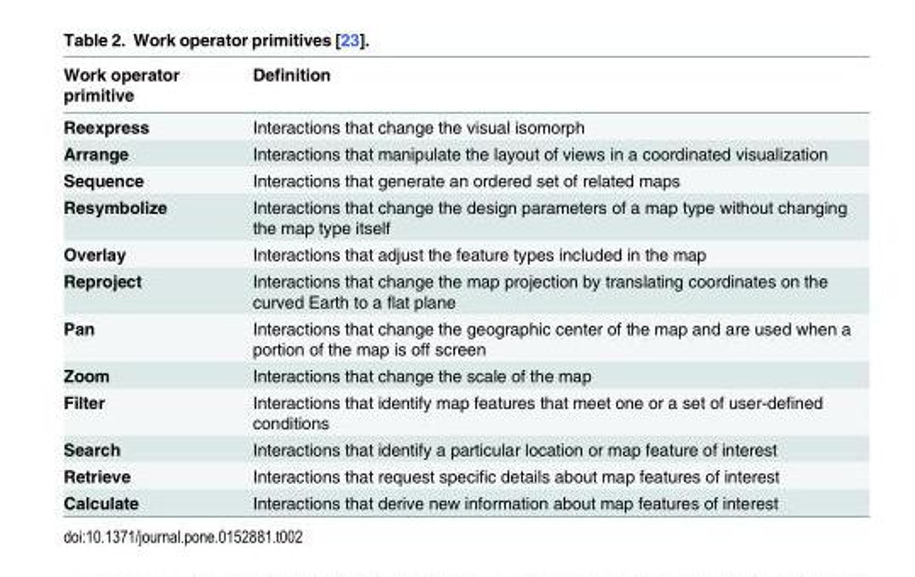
<table><thead><tr><td>Work operator primitive</td><td>Definition</td></tr></thead><tbody><tr><td>Reexpress</td><td>Interactions that change the visual isomorph</td></tr><tr><td>Arrange</td><td>Interactions that manipulate the layout of views in a coordinated visualization</td></tr><tr><td>Sequence</td><td>Interactions that generate an ordered set of related maps</td></tr><tr><td>Resymbolize</td><td>Interactions that change the design parameters of a map type without changing the map type itself</td></tr><tr><td>Overlay</td><td>Interactions that adjust the feature types included in the map</td></tr><tr><td>Reproject</td><td>Interactions that change the map projection by translating coordinates on the curved Earth to a flat plane</td></tr><tr><td>Pan</td><td>Interactions that change the geographic center of the map and are used when a portion of the map is off screen</td></tr><tr><td>Zoom</td><td>Interactions that change the scale of the map</td></tr><tr><td>Filter</td><td>Interactions that identify map features that meet one or a set of user-defined conditions</td></tr><tr><td>Search</td><td>Interactions that identify a particular location or map feature of interest</td></tr><tr><td>Retrieve</td><td>Interactions that request specific details about map features of interest</td></tr><tr><td>Calculate</td><td>Interactions that derive new information about map features of interest</td></tr></tbody></table>